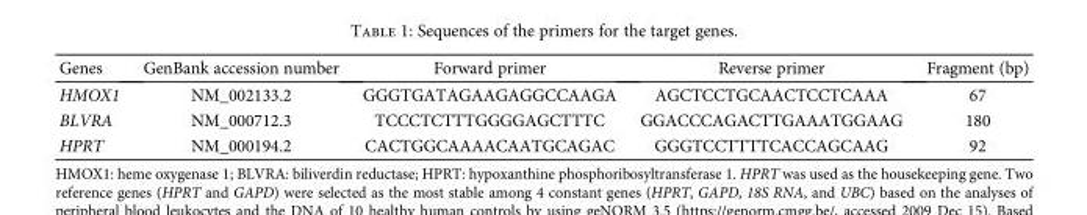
<table><thead><tr><td>Genes</td><td>GenBank accession number</td><td>Forward primer</td><td>Reverse primer</td><td>Fragment (bp)</td></tr></thead><tbody><tr><td>HMOX1</td><td>NM_002133.2</td><td>GGGTGATAGAAGAGGCCAAGA</td><td>AGCTCCTGCAACTCCTCAAA</td><td>67</td></tr><tr><td>BLVRA</td><td>NM_000712.3</td><td>TCCCTCTTTGGGGAGCTTTC</td><td>GGACCCAGACTTGAAATGGAAG</td><td>180</td></tr><tr><td>HPRT</td><td>NM_000194.2</td><td>CACTGGCAAAACAATGCAGAC</td><td>GGGTCCTTTTCACCAGCAAG</td><td>92</td></tr></tbody></table>